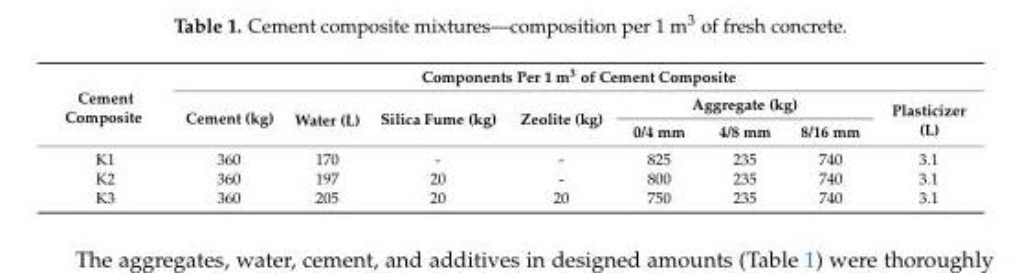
<table><thead><tr><td rowspan="3">Cement Composite</td><td colspan="8">Components Per 1 m<sup>3</sup> of Cement Composite</td></tr><tr><td rowspan="2">Cement (kg)</td><td rowspan="2">Water (L)</td><td rowspan="2">Silica Fume (kg)</td><td rowspan="2">Zeolite (kg)</td><td colspan="3">Aggregate (kg)</td><td rowspan="2">Plasticizer (L)</td></tr><tr><td>0/4 mm</td><td>4/8 mm</td><td>8/16 mm</td></tr></thead><tbody><tr><td>K1</td><td>360</td><td>170</td><td>-</td><td>-</td><td>825</td><td>235</td><td>740</td><td>3.1</td></tr><tr><td>K2</td><td>360</td><td>197</td><td>20</td><td>-</td><td>800</td><td>235</td><td>740</td><td>3.1</td></tr><tr><td>K3</td><td>360</td><td>205</td><td>20</td><td>20</td><td>750</td><td>235</td><td>740</td><td>3.1</td></tr></tbody></table>